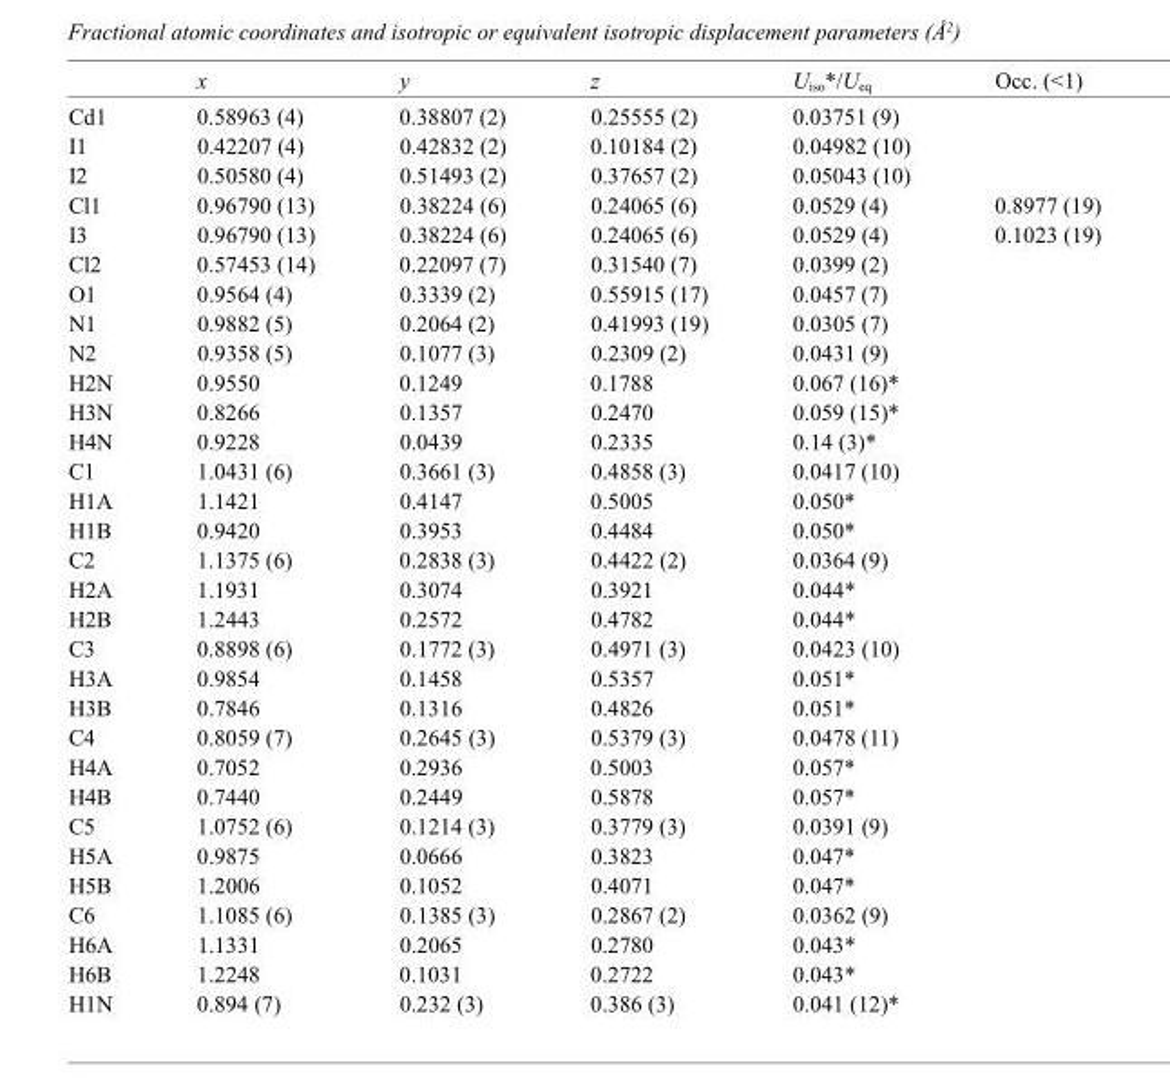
<table><thead><tr><td></td><td>x</td><td>y</td><td>z</td><td>U<sub>iso</sub>*/U<sub>eq</sub></td><td>Occ. (&lt;1)</td></tr></thead><tbody><tr><td>Cd1</td><td>0.58963 (4)</td><td>0.38807 (2)</td><td>0.25555 (2)</td><td>0.03751 (9)</td><td></td></tr><tr><td>I1</td><td>0.42207 (4)</td><td>0.42832 (2)</td><td>0.10184 (2)</td><td>0.04982 (10)</td><td></td></tr><tr><td>I2</td><td>0.50580 (4)</td><td>0.51493 (2)</td><td>0.37657 (2)</td><td>0.05043 (10)</td><td></td></tr><tr><td>Cl1</td><td>0.96790 (13)</td><td>0.38224 (6)</td><td>0.24065 (6)</td><td>0.0529 (4)</td><td>0.8977 (19)</td></tr><tr><td>I3</td><td>0.96790 (13)</td><td>0.38224 (6)</td><td>0.24065 (6)</td><td>0.0529 (4)</td><td>0.1023 (19)</td></tr><tr><td>Cl2</td><td>0.57453 (14)</td><td>0.22097 (7)</td><td>0.31540 (7)</td><td>0.0399 (2)</td><td></td></tr><tr><td>O1</td><td>0.9564 (4)</td><td>0.3339 (2)</td><td>0.55915 (17)</td><td>0.0457 (7)</td><td></td></tr><tr><td>N1</td><td>0.9882 (5)</td><td>0.2064 (2)</td><td>0.41993 (19)</td><td>0.0305 (7)</td><td></td></tr><tr><td>N2</td><td>0.9358 (5)</td><td>0.1077 (3)</td><td>0.2309 (2)</td><td>0.0431 (9)</td><td></td></tr><tr><td>H2N</td><td>0.9550</td><td>0.1249</td><td>0.1788</td><td>0.067 (16)*</td><td></td></tr><tr><td>H3N</td><td>0.8266</td><td>0.1357</td><td>0.2470</td><td>0.059 (15)*</td><td></td></tr><tr><td>H4N</td><td>0.9228</td><td>0.0439</td><td>0.2335</td><td>0.14 (3)*</td><td></td></tr><tr><td>C1</td><td>1.0431 (6)</td><td>0.3661 (3)</td><td>0.4858 (3)</td><td>0.0417 (10)</td><td></td></tr><tr><td>H1A</td><td>1.1421</td><td>0.4147</td><td>0.5005</td><td>0.050*</td><td></td></tr><tr><td>H1B</td><td>0.9420</td><td>0.3953</td><td>0.4484</td><td>0.050*</td><td></td></tr><tr><td>C2</td><td>1.1375 (6)</td><td>0.2838 (3)</td><td>0.4422 (2)</td><td>0.0364 (9)</td><td></td></tr><tr><td>H2A</td><td>1.1931</td><td>0.3074</td><td>0.3921</td><td>0.044*</td><td></td></tr><tr><td>H2B</td><td>1.2443</td><td>0.2572</td><td>0.4782</td><td>0.044*</td><td></td></tr><tr><td>C3</td><td>0.8898 (6)</td><td>0.1772 (3)</td><td>0.4971 (3)</td><td>0.0423 (10)</td><td></td></tr><tr><td>H3A</td><td>0.9854</td><td>0.1458</td><td>0.5357</td><td>0.051*</td><td></td></tr><tr><td>H3B</td><td>0.7846</td><td>0.1316</td><td>0.4826</td><td>0.051*</td><td></td></tr><tr><td>C4</td><td>0.8059 (7)</td><td>0.2645 (3)</td><td>0.5379 (3)</td><td>0.0478 (11)</td><td></td></tr><tr><td>H4A</td><td>0.7052</td><td>0.2936</td><td>0.5003</td><td>0.057*</td><td></td></tr><tr><td>H4B</td><td>0.7440</td><td>0.2449</td><td>0.5878</td><td>0.057*</td><td></td></tr><tr><td>C5</td><td>1.0752 (6)</td><td>0.1214 (3)</td><td>0.3779 (3)</td><td>0.0391 (9)</td><td></td></tr><tr><td>H5A</td><td>0.9875</td><td>0.0666</td><td>0.3823</td><td>0.047*</td><td></td></tr><tr><td>H5B</td><td>1.2006</td><td>0.1052</td><td>0.4071</td><td>0.047*</td><td></td></tr><tr><td>C6</td><td>1.1085 (6)</td><td>0.1385 (3)</td><td>0.2867 (2)</td><td>0.0362 (9)</td><td></td></tr><tr><td>H6A</td><td>1.1331</td><td>0.2065</td><td>0.2780</td><td>0.043*</td><td></td></tr><tr><td>H6B</td><td>1.2248</td><td>0.1031</td><td>0.2722</td><td>0.043*</td><td></td></tr><tr><td>H1N</td><td>0.894 (7)</td><td>0.232 (3)</td><td>0.386 (3)</td><td>0.041 (12)*</td><td></td></tr></tbody></table>